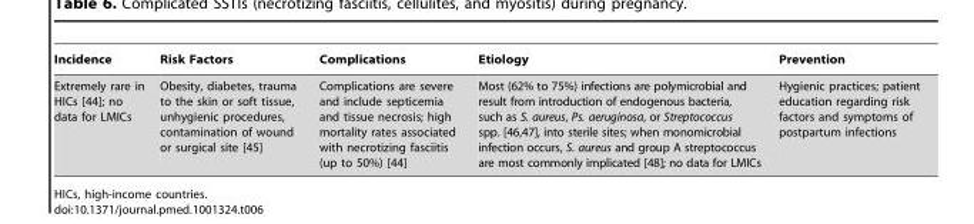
<table><thead><tr><td>Incidence</td><td>Risk Factors</td><td>Complications</td><td>Etiology</td><td>Prevention</td></tr></thead><tbody><tr><td>Extremely rare in HICs [44]; no data for LMICs</td><td>Obesity, diabetes, trauma to the skin or soft tissue, unhygienic procedures, contamination of wound or surgical site [45]</td><td>Complications are severe and include septicemia and tissue necrosis; high mortality rates associated with necrotizing fasciitis (up to 50%) [44]</td><td>Most (62% to 75%) infections are polymicrobial and result from introduction of endogenous bacteria, such as S. aureus, Ps. aeruginosa, or Streptococcus spp. [46,47], into sterile sites; when monomicrobial infection occurs, S. aureus and group A streptococcus are most commonly implicated [48]; no data for LMICs</td><td>Hygienic practices; patient education regarding risk factors and symptoms of postpartum infections</td></tr></tbody></table>